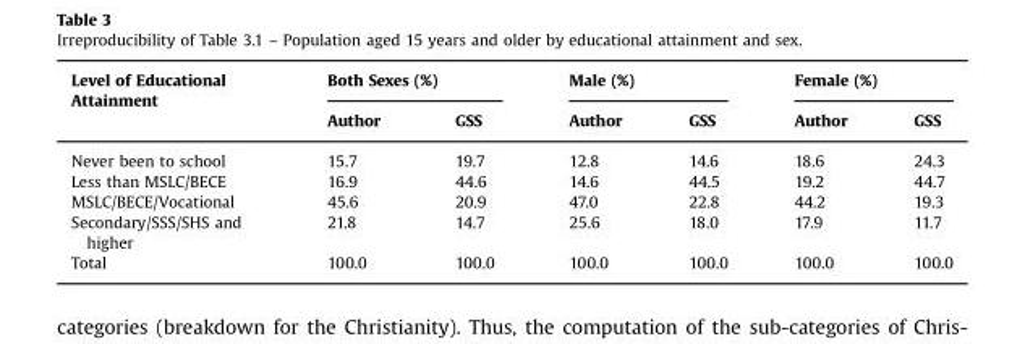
<table><thead><tr><td rowspan="2">Level of Educational Attainment</td><td colspan="2">Both Sexes (%)</td><td colspan="2">Male (%)</td><td colspan="2">Female (%)</td></tr><tr><td>Author</td><td>GSS</td><td>Author</td><td>GSS</td><td>Author</td><td>GSS</td></tr></thead><tbody><tr><td>Never been to school</td><td>15.7</td><td>19.7</td><td>12.8</td><td>14.6</td><td>18.6</td><td>24.3</td></tr><tr><td>Less than MSLC/BECE</td><td>16.9</td><td>44.6</td><td>14.6</td><td>44.5</td><td>19.2</td><td>44.7</td></tr><tr><td>MSLC/BECE/Vocational</td><td>45.6</td><td>20.9</td><td>47.0</td><td>22.8</td><td>44.2</td><td>19.3</td></tr><tr><td>Secondary/SSS/SHS and higher</td><td>21.8</td><td>14.7</td><td>25.6</td><td>18.0</td><td>17.9</td><td>11.7</td></tr><tr><td>Total</td><td>100.0</td><td>100.0</td><td>100.0</td><td>100.0</td><td>100.0</td><td>100.0</td></tr></tbody></table>